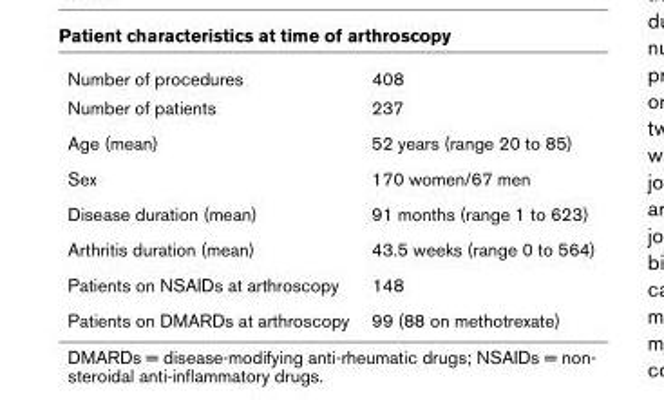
<table><tbody><tr><td>Number of procedures</td><td>408</td></tr><tr><td>Number of patients</td><td>237</td></tr><tr><td>Age (mean)</td><td>52 years (range 20 to 85)</td></tr><tr><td>Sex</td><td>170 women/67 men</td></tr><tr><td>Disease duration (mean)</td><td>91 months (range 1 to 623)</td></tr><tr><td>Arthritis duration (mean)</td><td>43.5 weeks (range 0 to 564)</td></tr><tr><td>Patients on NSAIDs at arthroscopy</td><td>148</td></tr><tr><td>Patients on DMARDs at arthroscopy</td><td>99 (88 on methotrexate)</td></tr></tbody></table>